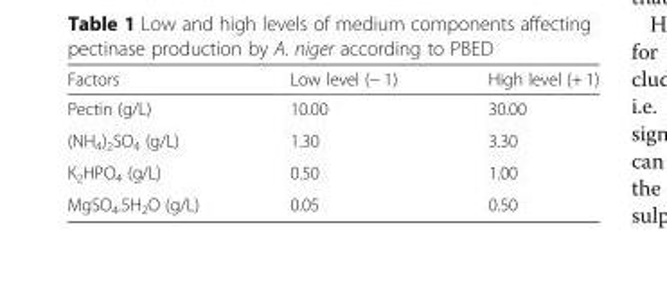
<table><thead><tr><td>Factors</td><td>Low level (− 1)</td><td>High level (+ 1)</td></tr></thead><tbody><tr><td>Pectin (g/L)</td><td>10.00</td><td>30.00</td></tr><tr><td>(NH<sub>4</sub>)<sub>2</sub>SO<sub>4</sub> (g/L)</td><td>1.30</td><td>3.30</td></tr><tr><td>K<sub>2</sub>HPO<sub>4</sub> (g/L)</td><td>0.50</td><td>1.00</td></tr><tr><td>MgSO<sub>4</sub>.5H<sub>2</sub>O (g/L)</td><td>0.05</td><td>0.50</td></tr></tbody></table>